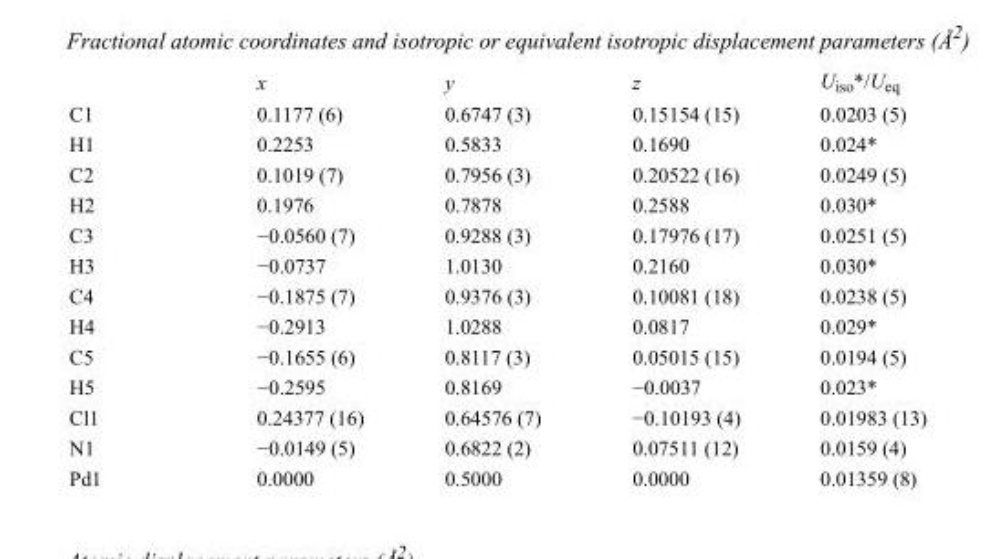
<table><thead><tr><td></td><td>x</td><td>y</td><td>z</td><td>U<sub>iso</sub>*/U<sub>eq</sub></td></tr></thead><tbody><tr><td>C1</td><td>0.1177 (6)</td><td>0.6747 (3)</td><td>0.15154 (15)</td><td>0.0203 (5)</td></tr><tr><td>H1</td><td>0.2253</td><td>0.5833</td><td>0.1690</td><td>0.024*</td></tr><tr><td>C2</td><td>0.1019 (7)</td><td>0.7956 (3)</td><td>0.20522 (16)</td><td>0.0249 (5)</td></tr><tr><td>H2</td><td>0.1976</td><td>0.7878</td><td>0.2588</td><td>0.030*</td></tr><tr><td>C3</td><td>−0.0560 (7)</td><td>0.9288 (3)</td><td>0.17976 (17)</td><td>0.0251 (5)</td></tr><tr><td>H3</td><td>−0.0737</td><td>1.0130</td><td>0.2160</td><td>0.030*</td></tr><tr><td>C4</td><td>−0.1875 (7)</td><td>0.9376 (3)</td><td>0.10081 (18)</td><td>0.0238 (5)</td></tr><tr><td>H4</td><td>−0.2913</td><td>1.0288</td><td>0.0817</td><td>0.029*</td></tr><tr><td>C5</td><td>−0.1655 (6)</td><td>0.8117 (3)</td><td>0.05015 (15)</td><td>0.0194 (5)</td></tr><tr><td>H5</td><td>−0.2595</td><td>0.8169</td><td>−0.0037</td><td>0.023*</td></tr><tr><td>Cl1</td><td>0.24377 (16)</td><td>0.64576 (7)</td><td>−0.10193 (4)</td><td>0.01983 (13)</td></tr><tr><td>N1</td><td>−0.0149 (5)</td><td>0.6822 (2)</td><td>0.07511 (12)</td><td>0.0159 (4)</td></tr><tr><td>Pd1</td><td>0.0000</td><td>0.5000</td><td>0.0000</td><td>0.01359 (8)</td></tr></tbody></table>